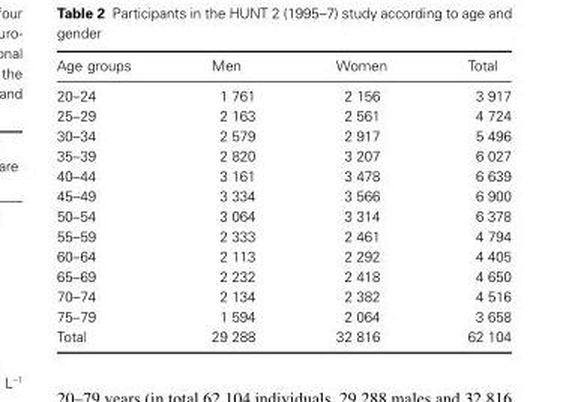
<table><thead><tr><td>Age groups</td><td>Men</td><td>Women</td><td>Total</td></tr></thead><tbody><tr><td>20–24</td><td>1 761</td><td>2 156</td><td>3 917</td></tr><tr><td>25–29</td><td>2 163</td><td>2 561</td><td>4 724</td></tr><tr><td>30–34</td><td>2 579</td><td>2 917</td><td>5 496</td></tr><tr><td>35–39</td><td>2 820</td><td>3 207</td><td>6 027</td></tr><tr><td>40–44</td><td>3 161</td><td>3 478</td><td>6 639</td></tr><tr><td>45–49</td><td>3 334</td><td>3 566</td><td>6 900</td></tr><tr><td>50–54</td><td>3 064</td><td>3 314</td><td>6 378</td></tr><tr><td>55–59</td><td>2 333</td><td>2 461</td><td>4 794</td></tr><tr><td>60–64</td><td>2 113</td><td>2 292</td><td>4 405</td></tr><tr><td>65–69</td><td>2 232</td><td>2 418</td><td>4 650</td></tr><tr><td>70–74</td><td>2 134</td><td>2 382</td><td>4 516</td></tr><tr><td>75–79</td><td>1 594</td><td>2 064</td><td>3 658</td></tr><tr><td>Total</td><td>29 288</td><td>32 816</td><td>62 104</td></tr></tbody></table>